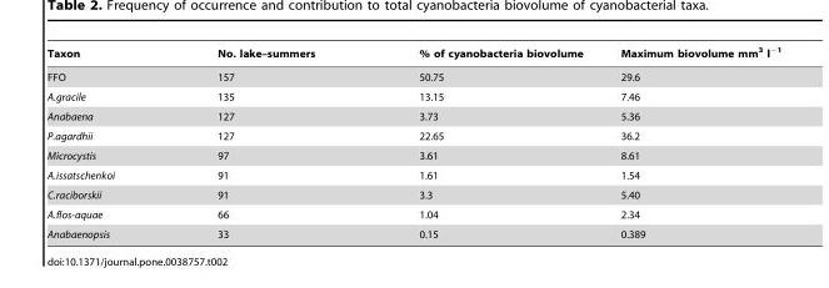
<table><thead><tr><td>Taxon</td><td>No. lake–summers</td><td>% of cyanobacteria biovolume</td><td>Maximum biovolume mm<sup>3</sup> l<sup>−1</sup></td></tr></thead><tbody><tr><td>FFO</td><td>157</td><td>50.75</td><td>29.6</td></tr><tr><td>A.gracile</td><td>135</td><td>13.15</td><td>7.46</td></tr><tr><td>Anabaena</td><td>127</td><td>3.73</td><td>5.36</td></tr><tr><td>P.agardhii</td><td>127</td><td>22.65</td><td>36.2</td></tr><tr><td>Microcystis</td><td>97</td><td>3.61</td><td>8.61</td></tr><tr><td>A.issatschenkoi</td><td>91</td><td>1.61</td><td>1.54</td></tr><tr><td>C.raciborskii</td><td>91</td><td>3.3</td><td>5.40</td></tr><tr><td>A.flos-aquae</td><td>66</td><td>1.04</td><td>2.34</td></tr><tr><td>Anabaenopsis</td><td>33</td><td>0.15</td><td>0.389</td></tr></tbody></table>